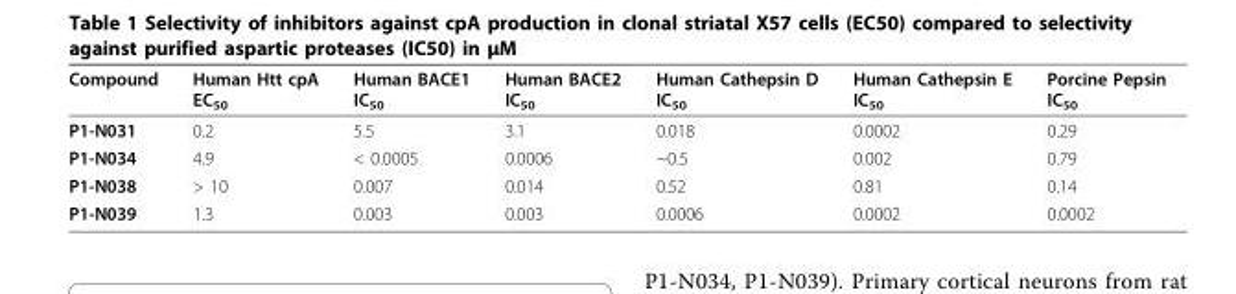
<table><thead><tr><td>Compound</td><td>Human Htt cpA EC<sub>50</sub></td><td>Human BACE1 IC<sub>50</sub></td><td>Human BACE2 IC<sub>50</sub></td><td>Human Cathepsin D IC<sub>50</sub></td><td>Human Cathepsin E IC<sub>50</sub></td><td>Porcine Pepsin IC<sub>50</sub></td></tr></thead><tbody><tr><td>P1-N031</td><td>0.2</td><td>5.5</td><td>3.1</td><td>0.018</td><td>0.0002</td><td>0.29</td></tr><tr><td>P1-N034</td><td>4.9</td><td>&lt; 0.0005</td><td>0.0006</td><td>~0.5</td><td>0.002</td><td>0.79</td></tr><tr><td>P1-N038</td><td>&gt; 10</td><td>0.007</td><td>0.014</td><td>0.52</td><td>0.81</td><td>0.14</td></tr><tr><td>P1-N039</td><td>1.3</td><td>0.003</td><td>0.003</td><td>0.0006</td><td>0.0002</td><td>0.0002</td></tr></tbody></table>